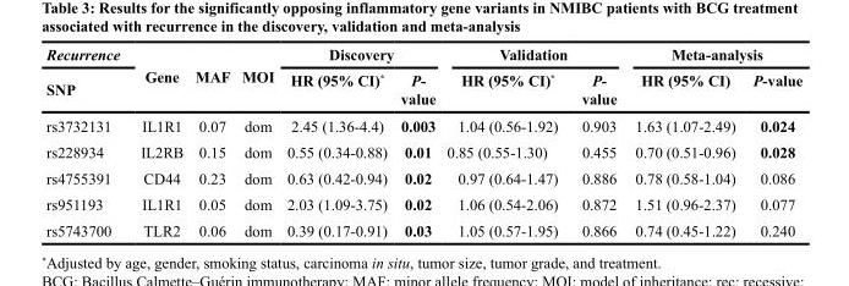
<table><thead><tr><td rowspan="2">Recurrence SNP</td><td rowspan="2">Gene</td><td rowspan="2">MAF</td><td rowspan="2">MOI</td><td colspan="2">Discovery</td><td colspan="2">Validation</td><td colspan="2">Meta-analysis</td></tr><tr><td>HR (95% CI)*</td><td>P- value</td><td>HR (95% CI)*</td><td>P- value</td><td>HR (95% CI)</td><td>P-value</td></tr></thead><tbody><tr><td>rs3732131</td><td>IL1R1</td><td>0.07</td><td>dom</td><td>2.45 (1.36-4.4)</td><td>0.003</td><td>1.04 (0.56-1.92)</td><td>0.903</td><td>1.63 (1.07-2.49)</td><td>0.024</td></tr><tr><td>rs228934</td><td>IL2RB</td><td>0.15</td><td>dom</td><td>0.55 (0.34-0.88)</td><td>0.01</td><td>0.85 (0.55-1.30)</td><td>0.455</td><td>0.70 (0.51-0.96)</td><td>0.028</td></tr><tr><td>rs4755391</td><td>CD44</td><td>0.23</td><td>dom</td><td>0.63 (0.42-0.94)</td><td>0.02</td><td>0.97 (0.64-1.47)</td><td>0.886</td><td>0.78 (0.58-1.04)</td><td>0.086</td></tr><tr><td>rs951193</td><td>IL1R1</td><td>0.05</td><td>dom</td><td>2.03 (1.09-3.75)</td><td>0.02</td><td>1.06 (0.54-2.06)</td><td>0.872</td><td>1.51 (0.96-2.37)</td><td>0.077</td></tr><tr><td>rs5743700</td><td>TLR2</td><td>0.06</td><td>dom</td><td>0.39 (0.17-0.91)</td><td>0.03</td><td>1.05 (0.57-1.95)</td><td>0.866</td><td>0.74 (0.45-1.22)</td><td>0.240</td></tr></tbody></table>